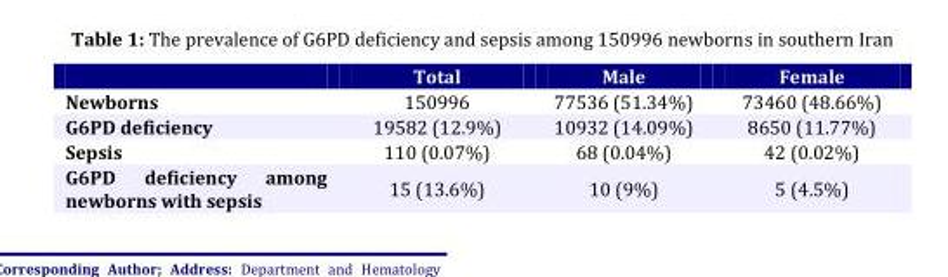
<table><thead><tr><td></td><td>Total</td><td>Male</td><td>Female</td></tr></thead><tbody><tr><td>Newborns</td><td>150996</td><td>77536 (51.34%)</td><td>73460 (48.66%)</td></tr><tr><td>G6PD deficiency</td><td>19582 (12.9%)</td><td>10932 (14.09%)</td><td>8650 (11.77%)</td></tr><tr><td>Sepsis</td><td>110 (0.07%)</td><td>68 (0.04%)</td><td>42 (0.02%)</td></tr><tr><td>G6PD deficiency among newborns with sepsis</td><td>15 (13.6%)</td><td>10 (9%)</td><td>5 (4.5%)</td></tr></tbody></table>